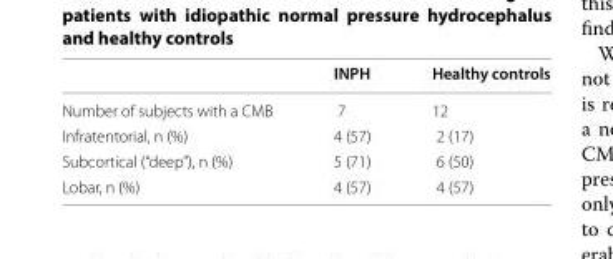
<table><thead><tr><td></td><td>INPH</td><td>Healthy controls</td></tr></thead><tbody><tr><td>Number of subjects with a CMB</td><td>7</td><td>12</td></tr><tr><td>Infratentorial, n (%)</td><td>4 (57)</td><td>2 (17)</td></tr><tr><td>Subcortical (“deep”), n (%)</td><td>5 (71)</td><td>6 (50)</td></tr><tr><td>Lobar, n (%)</td><td>4 (57)</td><td>4 (57)</td></tr></tbody></table>